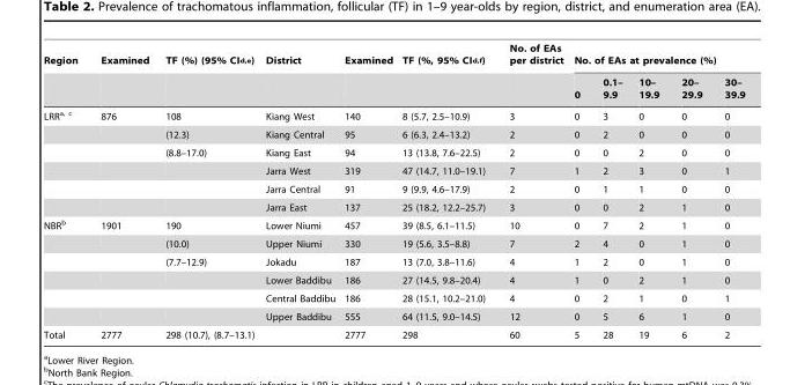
<table><thead><tr><td rowspan="2">Region</td><td rowspan="2">Examined</td><td rowspan="2">TF (%) (95% CId,e)</td><td rowspan="2">District</td><td rowspan="2">Examined</td><td rowspan="2">TF (%, 95% CId,f)</td><td rowspan="2">No. of EAs per district</td><td colspan="5">No. of EAs at prevalence (%)</td></tr><tr><td>0</td><td>0.1– 9.9</td><td>10– 19.9</td><td>20– 29.9</td><td>30– 39.9</td></tr></thead><tbody><tr><td rowspan="6">LRRa, c</td><td>876</td><td>108</td><td>Kiang West</td><td>140</td><td>8 (5.7, 2.5–10.9)</td><td>3</td><td>0</td><td>3</td><td>0</td><td>0</td><td>0</td></tr><tr><td></td><td>(12.3)</td><td>Kiang Central</td><td>95</td><td>6 (6.3, 2.4–13.2)</td><td>2</td><td>0</td><td>2</td><td>0</td><td>0</td><td>0</td></tr><tr><td></td><td>(8.8–17.0)</td><td>Kiang East</td><td>94</td><td>13 (13.8, 7.6–22.5)</td><td>2</td><td>0</td><td>0</td><td>2</td><td>0</td><td>0</td></tr><tr><td></td><td></td><td>Jarra West</td><td>319</td><td>47 (14.7, 11.0–19.1)</td><td>7</td><td>1</td><td>2</td><td>3</td><td>0</td><td>1</td></tr><tr><td></td><td></td><td>Jarra Central</td><td>91</td><td>9 (9.9, 4.6–17.9)</td><td>2</td><td>0</td><td>1</td><td>1</td><td>0</td><td>0</td></tr><tr><td></td><td></td><td>Jarra East</td><td>137</td><td>25 (18.2, 12.2–25.7)</td><td>3</td><td>0</td><td>0</td><td>2</td><td>1</td><td>0</td></tr><tr><td rowspan="6">NBR<sup>b</sup></td><td>1901</td><td>190</td><td>Lower Niumi</td><td>457</td><td>39 (8.5, 6.1–11.5)</td><td>10</td><td>0</td><td>7</td><td>2</td><td>1</td><td>0</td></tr><tr><td></td><td>(10.0)</td><td>Upper Niumi</td><td>330</td><td>19 (5.6, 3.5–8.8)</td><td>7</td><td>2</td><td>4</td><td>0</td><td>1</td><td>0</td></tr><tr><td></td><td>(7.7–12.9)</td><td>Jokadu</td><td>187</td><td>13 (7.0, 3.8–11.6)</td><td>4</td><td>1</td><td>2</td><td>0</td><td>1</td><td>0</td></tr><tr><td></td><td></td><td>Lower Baddibu</td><td>186</td><td>27 (14.5, 9.8–20.4)</td><td>4</td><td>1</td><td>0</td><td>2</td><td>1</td><td>0</td></tr><tr><td></td><td></td><td>Central Baddibu</td><td>186</td><td>28 (15.1, 10.2–21.0)</td><td>4</td><td>0</td><td>2</td><td>1</td><td>0</td><td>1</td></tr><tr><td></td><td></td><td>Upper Baddibu</td><td>555</td><td>64 (11.5, 9.0–14.5)</td><td>12</td><td>0</td><td>5</td><td>6</td><td>1</td><td>0</td></tr><tr><td>Total</td><td>2777</td><td>298 (10.7), (8.7–13.1)</td><td></td><td>2777</td><td>298</td><td>60</td><td>5</td><td>28</td><td>19</td><td>6</td><td>2</td></tr></tbody></table>